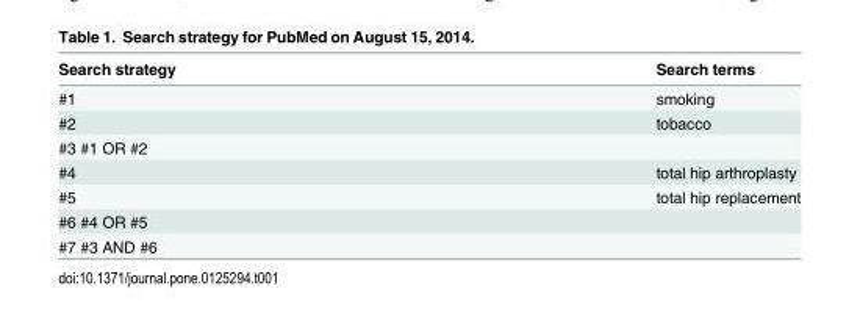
<table><thead><tr><td>Search strategy</td><td>Search terms</td></tr></thead><tbody><tr><td>#1</td><td>smoking</td></tr><tr><td>#2</td><td>tobacco</td></tr><tr><td colspan="2">#3 #1 OR #2</td></tr><tr><td>#4</td><td>total hip arthroplasty</td></tr><tr><td>#5</td><td>total hip replacement</td></tr><tr><td colspan="2">#6 #4 OR #5</td></tr><tr><td>#7 #3 AND #6</td><td></td></tr></tbody></table>